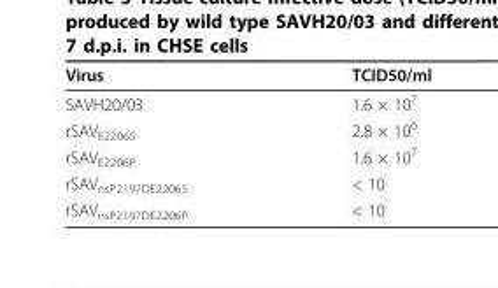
<table><thead><tr><td>Virus</td><td>TCID50/ml</td></tr></thead><tbody><tr><td>SAVH20/03</td><td>1.6 × 10<sup>7</sup></td></tr><tr><td>rSAV<sub>E2206S</sub></td><td>2.8 × 10<sup>6</sup></td></tr><tr><td>rSAV<sub>E2206P</sub></td><td>1.6 × 10<sup>7</sup></td></tr><tr><td>rSAV<sub>nsP2197DE2206S</sub></td><td>&lt; 10</td></tr><tr><td>rSAV<sub>nsP2197DE2206P</sub></td><td>&lt; 10</td></tr></tbody></table>